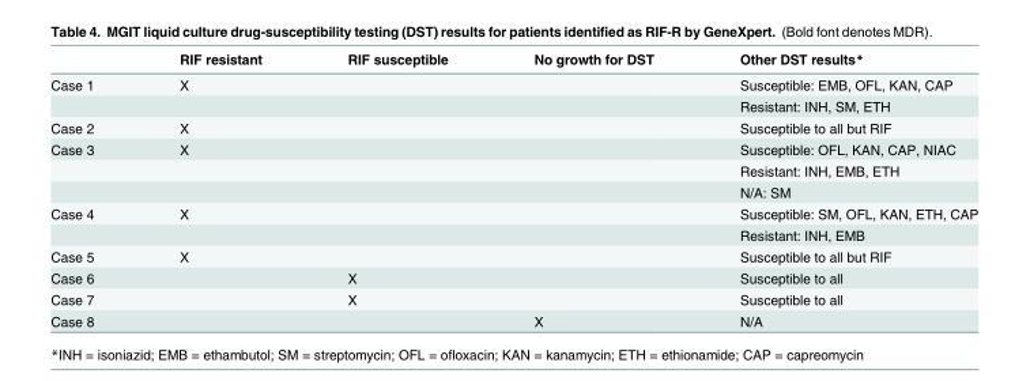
<table><thead><tr><td></td><td>RIF resistant</td><td>RIF susceptible</td><td>No growth for DST</td><td>Other DST results*</td></tr></thead><tbody><tr><td rowspan="2">Case 1</td><td>X</td><td></td><td></td><td>Susceptible: EMB, OFL, KAN, CAP</td></tr><tr><td></td><td></td><td></td><td>Resistant: INH, SM, ETH</td></tr><tr><td>Case 2</td><td>X</td><td></td><td></td><td>Susceptible to all but RIF</td></tr><tr><td rowspan="3">Case 3</td><td>X</td><td></td><td></td><td>Susceptible: OFL, KAN, CAP, NIAC</td></tr><tr><td></td><td></td><td></td><td>Resistant: INH, EMB, ETH</td></tr><tr><td></td><td></td><td></td><td>N/A: SM</td></tr><tr><td rowspan="2">Case 4</td><td>X</td><td></td><td></td><td>Susceptible: SM, OFL, KAN, ETH, CAP</td></tr><tr><td></td><td></td><td></td><td>Resistant: INH, EMB</td></tr><tr><td>Case 5</td><td>X</td><td></td><td></td><td>Susceptible to all but RIF</td></tr><tr><td>Case 6</td><td></td><td>X</td><td></td><td>Susceptible to all</td></tr><tr><td>Case 7</td><td></td><td>X</td><td></td><td>Susceptible to all</td></tr><tr><td>Case 8</td><td></td><td></td><td>X</td><td>N/A</td></tr></tbody></table>